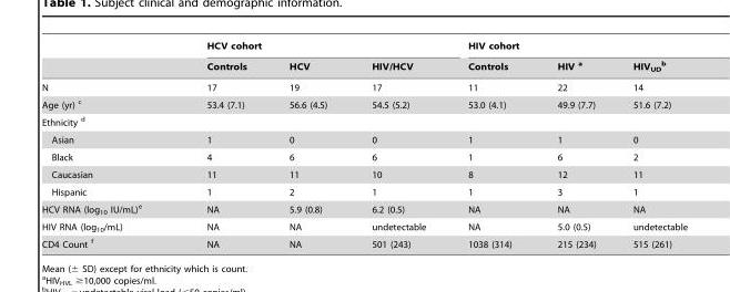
<table><thead><tr><td rowspan="2"></td><td colspan="3">HCV cohort</td><td colspan="3">HIV cohort</td></tr><tr><td>Controls</td><td>HCV</td><td>HIV/HCV</td><td>Controls</td><td>HIV a</td><td>HIV<sub>UD</sub> b</td></tr></thead><tbody><tr><td>N</td><td>17</td><td>19</td><td>17</td><td>11</td><td>22</td><td>14</td></tr><tr><td>Age (yr) c</td><td>53.4 (7.1)</td><td>56.6 (4.5)</td><td>54.5 (5.2)</td><td>53.0 (4.1)</td><td>49.9 (7.7)</td><td>51.6 (7.2)</td></tr><tr><td colspan="7">Ethnicity d</td></tr><tr><td>Asian</td><td>1</td><td>0</td><td>0</td><td>1</td><td>1</td><td>0</td></tr><tr><td>Black</td><td>4</td><td>6</td><td>6</td><td>1</td><td>6</td><td>2</td></tr><tr><td>Caucasian</td><td>11</td><td>11</td><td>10</td><td>8</td><td>12</td><td>11</td></tr><tr><td>Hispanic</td><td>1</td><td>2</td><td>1</td><td>1</td><td>3</td><td>1</td></tr><tr><td>HCV RNA (log<sub>10</sub> IU/mL)<sup>e</sup></td><td>NA</td><td>5.9 (0.8)</td><td>6.2 (0.5)</td><td>NA</td><td>NA</td><td>NA</td></tr><tr><td>HIV RNA (log<sub>10</sub>/mL)</td><td>NA</td><td>NA</td><td>undetectable</td><td>NA</td><td>5.0 (0.5)</td><td>undetectable</td></tr><tr><td>CD4 Count f</td><td>NA</td><td>NA</td><td>501 (243)</td><td>1038 (314)</td><td>215 (234)</td><td>515 (261)</td></tr></tbody></table>